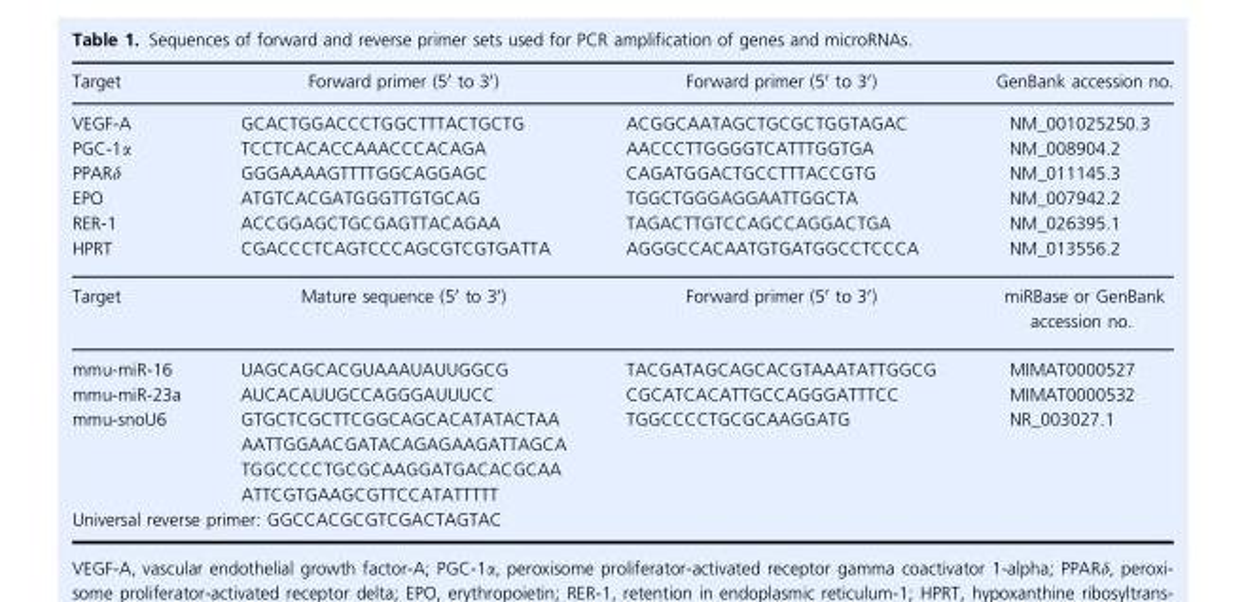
<table><thead><tr><td>Target</td><td>Forward primer (5′ to 3′)</td><td>Forward primer (5′ to 3′)</td><td>GenBank accession no.</td></tr></thead><tbody><tr><td>VEGF-A</td><td>GCACTGGACCCTGGCTTTACTGCTG</td><td>ACGGCAATAGCTGCGCTGGTAGAC</td><td>NM_001025250.3</td></tr><tr><td>PGC-1α</td><td>TCCTCACACCAAACCCACAGA</td><td>AACCCTTGGGGTCATTTGGTGA</td><td>NM_008904.2</td></tr><tr><td>PPARδ</td><td>GGGAAAAGTTTTGGCAGGAGC</td><td>CAGATGGACTGCCTTTACCGTG</td><td>NM_011145.3</td></tr><tr><td>EPO</td><td>ATGTCACGATGGGTTGTGCAG</td><td>TGGCTGGGAGGAATTGGCTA</td><td>NM_007942.2</td></tr><tr><td>RER-1</td><td>ACCGGAGCTGCGAGTTACAGAA</td><td>TAGACTTGTCCAGCCAGGACTGA</td><td>NM_026395.1</td></tr><tr><td>HPRT</td><td>CGACCCTCAGTCCCAGCGTCGTGATTA</td><td>AGGGCCACAATGTGATGGCCTCCCA</td><td>NM_013556.2</td></tr><tr><td>Target</td><td>Mature sequence (5′ to 3′)</td><td>Forward primer (5′ to 3′)</td><td>miRBase or GenBank accession no.</td></tr><tr><td>mmu-miR-16</td><td>UAGCAGCACGUAAAUAUUGGCG</td><td>TACGATAGCAGCACGTAAATATTGGCG</td><td>MIMAT0000527</td></tr><tr><td>mmu-miR-23a</td><td>AUCACAUUGCCAGGGAUUUCC</td><td>CGCATCACATTGCCAGGGATTTCC</td><td>MIMAT0000532</td></tr><tr><td>mmu-snoU6</td><td>GTGCTCGCTTCGGCAGCACATATACTAA AATTGGAACGATACAGAGAAGATTAGCA TGGCCCCTGCGCAAGGATGACACGCAA ATTCGTGAAGCGTTCCATATTTTT</td><td>TGGCCCCTGCGCAAGGATG</td><td>NR_003027.1</td></tr><tr><td colspan="4">Universal reverse primer: GGCCACGCGTCGACTAGTAC</td></tr></tbody></table>